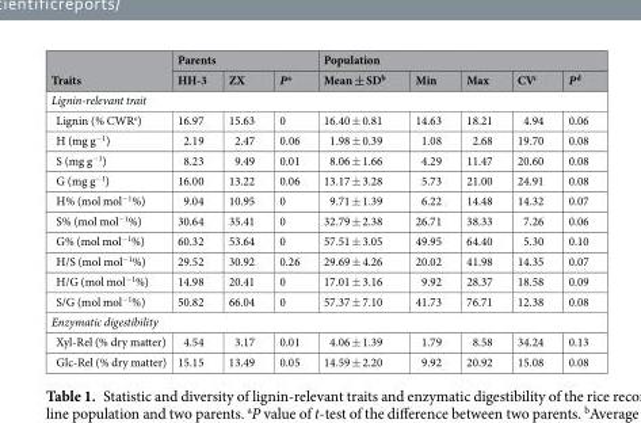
<table><thead><tr><td rowspan="2">Traits</td><td colspan="3">Parents</td><td colspan="5">Population</td></tr><tr><td>HH-3</td><td>ZX</td><td>P <sup>a</sup></td><td>Mean ± SD<sup>b</sup></td><td>Min</td><td>Max</td><td>CV<sup>c</sup></td><td>P <sup>d</sup></td></tr></thead><tbody><tr><td colspan="9">Lignin-relevant trait</td></tr><tr><td>Lignin (% CWR<sup>e</sup>)</td><td>16.97</td><td>15.63</td><td>0</td><td>16.40 ± 0.81</td><td>14.63</td><td>18.21</td><td>4.94</td><td>0.06</td></tr><tr><td>H (mg g<sup>−1</sup>)</td><td>2.19</td><td>2.47</td><td>0.06</td><td>1.98 ± 0.39</td><td>1.08</td><td>2.68</td><td>19.70</td><td>0.08</td></tr><tr><td>S (mg g<sup>−1</sup>)</td><td>8.23</td><td>9.49</td><td>0.01</td><td>8.06 ± 1.66</td><td>4.29</td><td>11.47</td><td>20.60</td><td>0.08</td></tr><tr><td>G (mg g<sup>−1</sup>)</td><td>16.00</td><td>13.22</td><td>0.06</td><td>13.17 ± 3.28</td><td>5.73</td><td>21.00</td><td>24.91</td><td>0.08</td></tr><tr><td>H% (mol mol<sup>−1</sup>%)</td><td>9.04</td><td>10.95</td><td>0</td><td>9.71 ± 1.39</td><td>6.22</td><td>14.48</td><td>14.32</td><td>0.07</td></tr><tr><td>S% (mol mol<sup>−1</sup>%)</td><td>30.64</td><td>35.41</td><td>0</td><td>32.79 ± 2.38</td><td>26.71</td><td>38.33</td><td>7.26</td><td>0.06</td></tr><tr><td>G% (mol mol<sup>−1</sup>%)</td><td>60.32</td><td>53.64</td><td>0</td><td>57.51 ± 3.05</td><td>49.95</td><td>64.40</td><td>5.30</td><td>0.10</td></tr><tr><td>H/S (mol mol<sup>−1</sup>%)</td><td>29.52</td><td>30.92</td><td>0.26</td><td>29.69 ± 4.26</td><td>20.02</td><td>41.98</td><td>14.35</td><td>0.07</td></tr><tr><td>H/G (mol mol<sup>−1</sup>%)</td><td>14.98</td><td>20.41</td><td>0</td><td>17.01 ± 3.16</td><td>9.92</td><td>28.37</td><td>18.58</td><td>0.09</td></tr><tr><td>S/G (mol mol<sup>−1</sup>%)</td><td>50.82</td><td>66.04</td><td>0</td><td>57.37 ± 7.10</td><td>41.73</td><td>76.71</td><td>12.38</td><td>0.08</td></tr><tr><td colspan="9">Enzymatic digestibility</td></tr><tr><td>Xyl-Rel (% dry matter)</td><td>4.54</td><td>3.17</td><td>0.01</td><td>4.06 ± 1.39</td><td>1.79</td><td>8.58</td><td>34.24</td><td>0.13</td></tr><tr><td>Glc-Rel (% dry matter)</td><td>15.15</td><td>13.49</td><td>0.05</td><td>14.59 ± 2.20</td><td>9.92</td><td>20.92</td><td>15.08</td><td>0.08</td></tr></tbody></table>